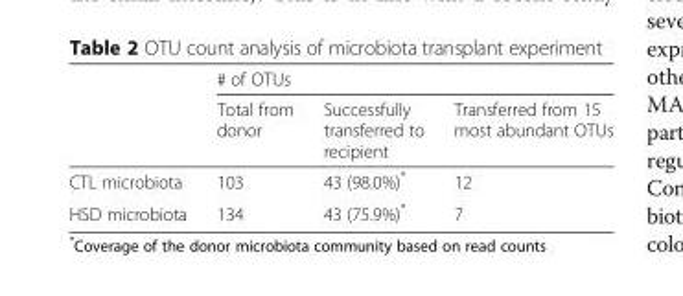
<table><thead><tr><td rowspan="2"></td><td colspan="3"># of OTUs</td></tr><tr><td>Total from donor</td><td>Successfully transferred to recipient</td><td>Transferred from 15 most abundant OTUs</td></tr></thead><tbody><tr><td>CTL microbiota</td><td>103</td><td>43 (98.0%)*</td><td>12</td></tr><tr><td>HSD microbiota</td><td>134</td><td>43 (75.9%)*</td><td>7</td></tr></tbody></table>